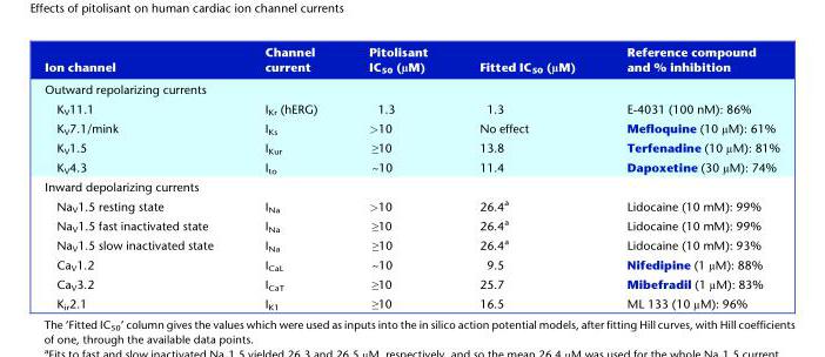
<table><thead><tr><td>Ion channel</td><td>Channel current</td><td>Pitolisant IC<sub>50</sub> (μM)</td><td>Fitted IC<sub>50</sub> (μM)</td><td>Reference compound and % inhibition</td></tr></thead><tbody><tr><td colspan="5">Outward repolarizing currents</td></tr><tr><td>K<sub>V</sub>11.1</td><td>I<sub>Kr</sub> (hERG)</td><td>1.3</td><td>1.3</td><td>E-4031 (100 nM): 86%</td></tr><tr><td>K<sub>V</sub>7.1/mink</td><td>I<sub>Ks</sub></td><td>&gt;10</td><td>No effect</td><td>Mefloquine (10 μM): 61%</td></tr><tr><td>K<sub>V</sub>1.5</td><td>I<sub>Kur</sub></td><td>≥10</td><td>13.8</td><td>Terfenadine (10 μM): 81%</td></tr><tr><td>K<sub>V</sub>4.3</td><td>I<sub>to</sub></td><td>~10</td><td>11.4</td><td>Dapoxetine (30 μM): 74%</td></tr><tr><td colspan="5">Inward depolarizing currents</td></tr><tr><td>Na<sub>V</sub>1.5 resting state</td><td>I<sub>Na</sub></td><td>&gt;10</td><td>26.4<sup>a</sup></td><td>Lidocaine (10 mM): 99%</td></tr><tr><td>Na<sub>V</sub>1.5 fast inactivated state</td><td>I<sub>Na</sub></td><td>≥10</td><td>26.4<sup>a</sup></td><td>Lidocaine (10 mM): 99%</td></tr><tr><td>Na<sub>V</sub>1.5 slow inactivated state</td><td>I<sub>Na</sub></td><td>≥10</td><td>26.4<sup>a</sup></td><td>Lidocaine (10 mM): 93%</td></tr><tr><td>Ca<sub>V</sub>1.2</td><td>I<sub>CaL</sub></td><td>~10</td><td>9.5</td><td>Nifedipine (1 μM): 88%</td></tr><tr><td>Ca<sub>V</sub>3.2</td><td>I<sub>CaT</sub></td><td>≥10</td><td>25.7</td><td>Mibefradil (1 μM): 83%</td></tr><tr><td>K<sub>ir</sub>2.1</td><td>I<sub>K1</sub></td><td>≥10</td><td>16.5</td><td>ML 133 (10 μM): 96%</td></tr></tbody></table>